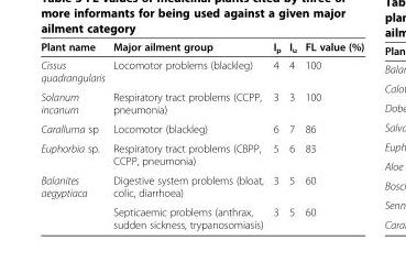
<table><thead><tr><td>Plant name</td><td>Major ailment group</td><td>I<sub>p</sub></td><td>I<sub>u</sub></td><td>FL value (%)</td></tr></thead><tbody><tr><td>Cissus quadrangularis</td><td>Locomotor problems (blackleg)</td><td>4</td><td>4</td><td>100</td></tr><tr><td>Solanum incanum</td><td>Respiratory tract problems (CCPP, pneumonia)</td><td>3</td><td>3</td><td>100</td></tr><tr><td>Caralluma sp</td><td>Locomotor (blackleg)</td><td>6</td><td>7</td><td>86</td></tr><tr><td>Euphorbia sp.</td><td>Respiratory tract problems (CBPP, CCPP, pneumonia)</td><td>5</td><td>6</td><td>83</td></tr><tr><td rowspan="2">Balanites aegyptiaca</td><td>Digestive system problems (bloat, colic, diarrhoea)</td><td>3</td><td>5</td><td>60</td></tr><tr><td>Septicaemic problems (anthrax, sudden sickness, trypanosomiasis)</td><td>3</td><td>5</td><td>60</td></tr></tbody></table>